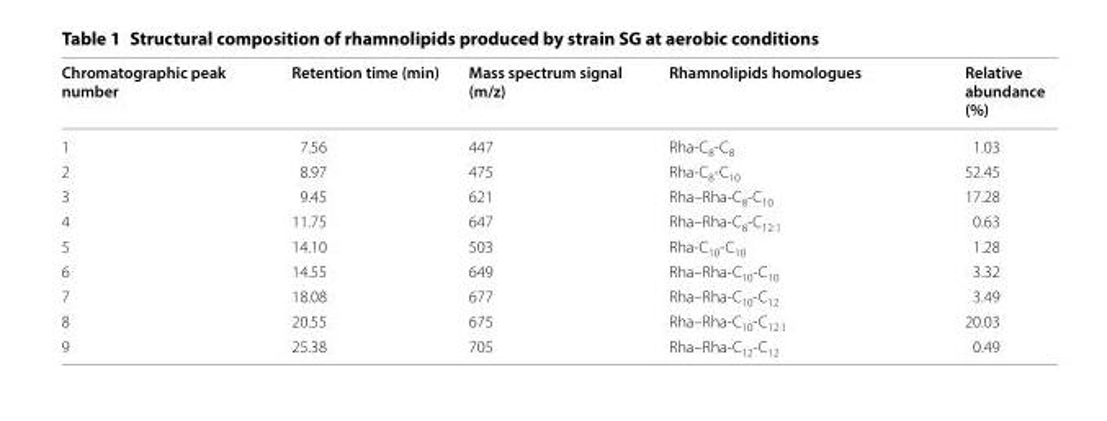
<table><thead><tr><td>Chromatographic peak number</td><td>Retention time (min)</td><td>Mass spectrum signal (m/z)</td><td>Rhamnolipids homologues</td><td>Relative abundance (%)</td></tr></thead><tbody><tr><td>1</td><td>7.56</td><td>447</td><td>Rha-C<sub>8</sub>-C<sub>8</sub></td><td>1.03</td></tr><tr><td>2</td><td>8.97</td><td>475</td><td>Rha-C<sub>8</sub>-C<sub>10</sub></td><td>52.45</td></tr><tr><td>3</td><td>9.45</td><td>621</td><td>Rha–Rha-C<sub>8</sub>-C<sub>10</sub></td><td>17.28</td></tr><tr><td>4</td><td>11.75</td><td>647</td><td>Rha–Rha-C<sub>8</sub>-C<sub>12:1</sub></td><td>0.63</td></tr><tr><td>5</td><td>14.10</td><td>503</td><td>Rha-C<sub>10</sub>-C<sub>10</sub></td><td>1.28</td></tr><tr><td>6</td><td>14.55</td><td>649</td><td>Rha–Rha-C<sub>10</sub>-C<sub>10</sub></td><td>3.32</td></tr><tr><td>7</td><td>18.08</td><td>677</td><td>Rha–Rha-C<sub>10</sub>-C<sub>12</sub></td><td>3.49</td></tr><tr><td>8</td><td>20.55</td><td>675</td><td>Rha–Rha-C<sub>10</sub>-C<sub>12:1</sub></td><td>20.03</td></tr><tr><td>9</td><td>25.38</td><td>705</td><td>Rha–Rha-C<sub>12</sub>-C<sub>12</sub></td><td>0.49</td></tr></tbody></table>